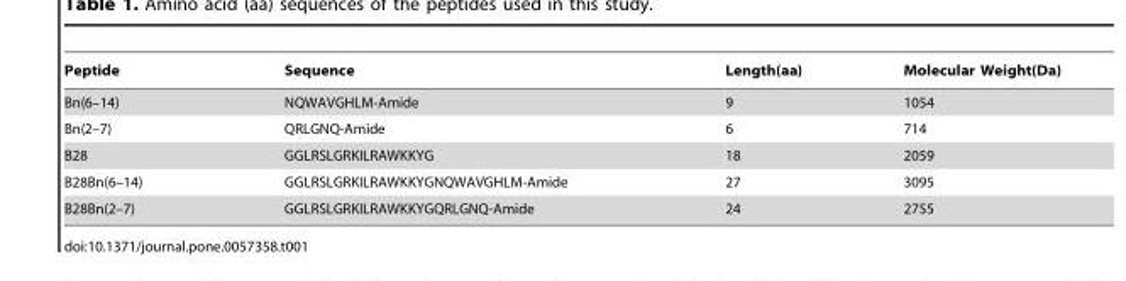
<table><thead><tr><td>Peptide</td><td>Sequence</td><td>Length(aa)</td><td>Molecular Weight(Da)</td></tr></thead><tbody><tr><td>Bn(6–14)</td><td>NQWAVGHLM-Amide</td><td>9</td><td>1054</td></tr><tr><td>Bn(2–7)</td><td>QRLGNQ-Amide</td><td>6</td><td>714</td></tr><tr><td>B28</td><td>GGLRSLGRKILRAWKKYG</td><td>18</td><td>2059</td></tr><tr><td>B28Bn(6–14)</td><td>GGLRSLGRKILRAWKKYGNQWAVGHLM-Amide</td><td>27</td><td>3095</td></tr><tr><td>B28Bn(2–7)</td><td>GGLRSLGRKILRAWKKYGQRLGNQ-Amide</td><td>24</td><td>2755</td></tr></tbody></table>